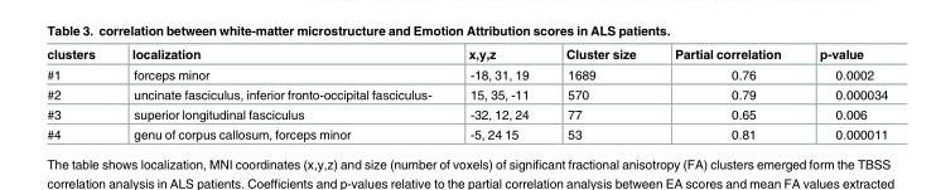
<table><thead><tr><td>clusters</td><td>localization</td><td>x,y,z</td><td>Cluster size</td><td>Partial correlation</td><td>p-value</td></tr></thead><tbody><tr><td>#1</td><td>forceps minor</td><td>-18, 31, 19</td><td>1689</td><td>0.76</td><td>0.0002</td></tr><tr><td>#2</td><td>uncinate fasciculus, inferior fronto-occipital fasciculus-</td><td>15, 35, -11</td><td>570</td><td>0.79</td><td>0.000034</td></tr><tr><td>#3</td><td>superior longitudinal fasciculus</td><td>-32, 12, 24</td><td>77</td><td>0.65</td><td>0.006</td></tr><tr><td>#4</td><td>genu of corpus callosum, forceps minor</td><td>-5, 24 15</td><td>53</td><td>0.81</td><td>0.000011</td></tr></tbody></table>